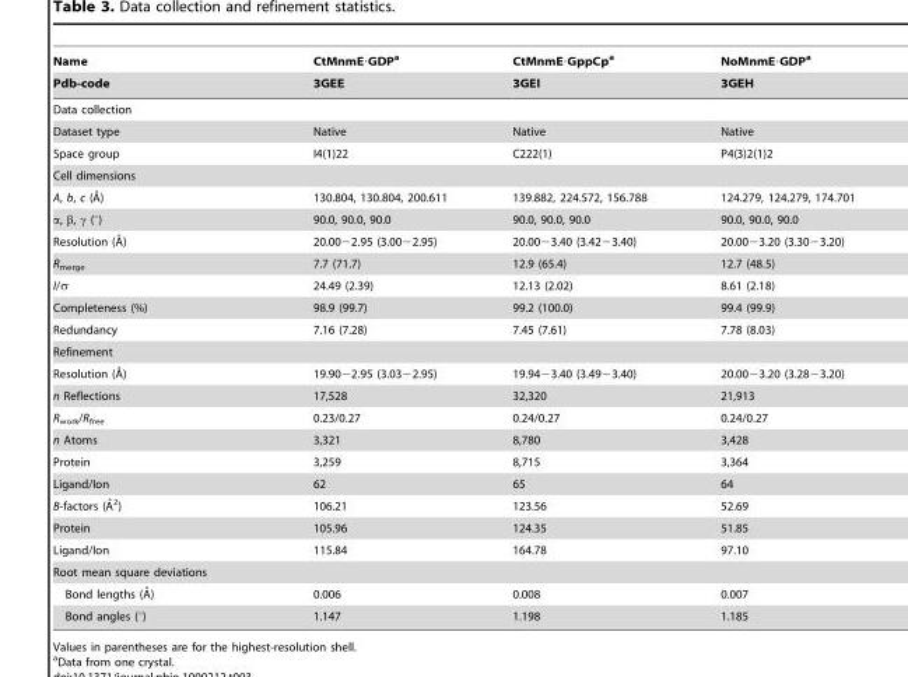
<table><thead><tr><td rowspan="2">Name Pdb-code</td><td rowspan="2">CtMnmE·GDP<sup>a</sup> 3GEE</td><td rowspan="2">CtMnmE·GppCp<sup>a</sup> 3GEI</td><td rowspan="2">NoMnmE·GDP<sup>a</sup> 3GEH</td></tr><tr></tr></thead><tbody><tr><td colspan="4">Data collection</td></tr><tr><td>Dataset type</td><td>Native</td><td>Native</td><td>Native</td></tr><tr><td>Space group</td><td>I4(1)22</td><td>C222(1)</td><td>P4(3)2(1)2</td></tr><tr><td colspan="4">Cell dimensions</td></tr><tr><td>A, b, c (A˚)</td><td>130.804, 130.804, 200.611</td><td>139.882, 224.572, 156.788</td><td>124.279, 124.279, 174.701</td></tr><tr><td>α, β, γ (°)</td><td>90.0, 90.0, 90.0</td><td>90.0, 90.0, 90.0</td><td>90.0, 90.0, 90.0</td></tr><tr><td>Resolution (A˚)</td><td>20.00−2.95 (3.00−2.95)</td><td>20.00−3.40 (3.42−3.40)</td><td>20.00−3.20 (3.30−3.20)</td></tr><tr><td>R<sub>merge</sub></td><td>7.7 (71.7)</td><td>12.9 (65.4)</td><td>12.7 (48.5)</td></tr><tr><td>I/σ</td><td>24.49 (2.39)</td><td>12.13 (2.02)</td><td>8.61 (2.18)</td></tr><tr><td>Completeness (%)</td><td>98.9 (99.7)</td><td>99.2 (100.0)</td><td>99.4 (99.9)</td></tr><tr><td>Redundancy</td><td>7.16 (7.28)</td><td>7.45 (7.61)</td><td>7.78 (8.03)</td></tr><tr><td colspan="4">Refinement</td></tr><tr><td>Resolution (A˚)</td><td>19.90−2.95 (3.03−2.95)</td><td>19.94−3.40 (3.49−3.40)</td><td>20.00−3.20 (3.28−3.20)</td></tr><tr><td>n Reflections</td><td>17,528</td><td>32,320</td><td>21,913</td></tr><tr><td>R<sub>work</sub>/R<sub>free</sub></td><td>0.23/0.27</td><td>0.24/0.27</td><td>0.24/0.27</td></tr><tr><td>n Atoms</td><td>3,321</td><td>8,780</td><td>3,428</td></tr><tr><td>Protein</td><td>3,259</td><td>8,715</td><td>3,364</td></tr><tr><td>Ligand/Ion</td><td>62</td><td>65</td><td>64</td></tr><tr><td>B-factors (A˚2)</td><td>106.21</td><td>123.56</td><td>52.69</td></tr><tr><td>Protein</td><td>105.96</td><td>124.35</td><td>51.85</td></tr><tr><td>Ligand/Ion</td><td>115.84</td><td>164.78</td><td>97.10</td></tr><tr><td colspan="4">Root mean square deviations</td></tr><tr><td>Bond lengths (A˚)</td><td>0.006</td><td>0.008</td><td>0.007</td></tr><tr><td>Bond angles (°)</td><td>1.147</td><td>1.198</td><td>1.185</td></tr></tbody></table>